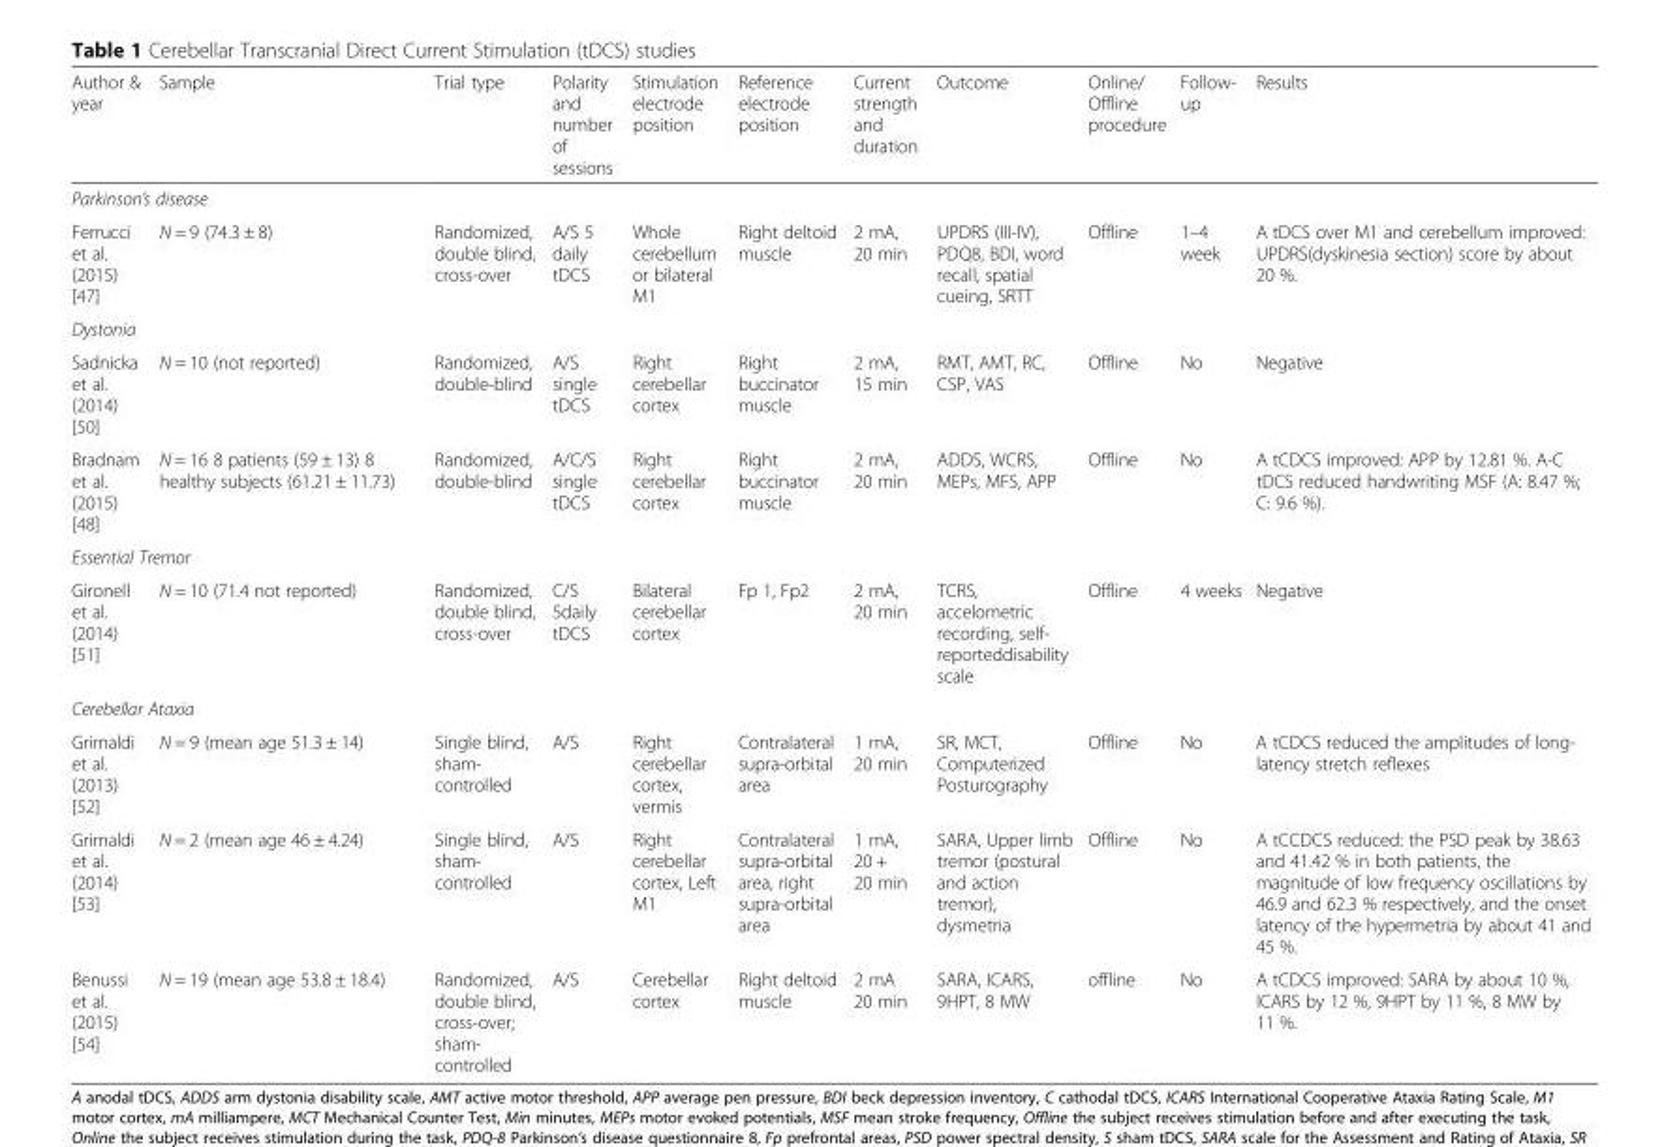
<table><thead><tr><td>Author &amp; year</td><td>Sample</td><td>Trial type</td><td>Polarity and number of sessions</td><td>Stimulation electrode position</td><td>Reference electrode position</td><td>Current strength and duration</td><td>Outcome</td><td>Online/ Offline procedure</td><td>Follow- up</td><td>Results</td></tr></thead><tbody><tr><td colspan="11">Parkinson’s disease</td></tr><tr><td>Ferrucci et al. (2015) [47]</td><td>N = 9 (74.3 ± 8)</td><td>Randomized, double blind, cross-over</td><td>A/S 5 daily tDCS</td><td>Whole cerebellum or bilateral M1</td><td>Right deltoid muscle</td><td>2 mA, 20 min</td><td>UPDRS (III-IV), PDQ8, BDI, word recall, spatial cueing, SRTT</td><td>Offline</td><td>1–4 week</td><td>A tDCS over M1 and cerebellum improved: UPDRS(dyskinesia section) score by about 20 %.</td></tr><tr><td colspan="11">Dystonia</td></tr><tr><td>Sadnicka et al. (2014) [50]</td><td>N = 10 (not reported)</td><td>Randomized, double-blind</td><td>A/S single tDCS</td><td>Right cerebellar cortex</td><td>Right buccinator muscle</td><td>2 mA, 15 min</td><td>RMT, AMT, RC, CSP, VAS</td><td>Offline</td><td>No</td><td>Negative</td></tr><tr><td>Bradnam et al. (2015) [48]</td><td>N = 16 8 patients (59 ± 13) 8 healthy subjects (61.21 ± 11.73)</td><td>Randomized, double-blind</td><td>A/C/S single tDCS</td><td>Right cerebellar cortex</td><td>Right buccinator muscle</td><td>2 mA, 20 min</td><td>ADDS, WCRS, MEPs, MFS, APP</td><td>Offline</td><td>No</td><td>A tCDCS improved: APP by 12.81 %. A-C tDCS reduced handwriting MSF (A: 8.47 %; C: 9.6 %).</td></tr><tr><td colspan="11">Essential Tremor</td></tr><tr><td>Gironell et al. (2014) [51]</td><td>N = 10 (71.4 not reported)</td><td>Randomized, double blind, cross-over</td><td>C/S 5daily tDCS</td><td>Bilateral cerebellar cortex</td><td>Fp 1, Fp2</td><td>2 mA, 20 min</td><td>TCRS, accelometric recording, self- reporteddisability scale</td><td>Offline</td><td>4 weeks</td><td>Negative</td></tr><tr><td colspan="11">Cerebellar Ataxia</td></tr><tr><td>Grimaldi et al. (2013) [52]</td><td>N = 9 (mean age 51.3 ± 14)</td><td>Single blind, sham- controlled</td><td>A/S</td><td>Right cerebellar cortex, vermis</td><td>Contralateral supra-orbital area</td><td>1 mA, 20 min</td><td>SR, MCT, Computerized Posturography</td><td>Offline</td><td>No</td><td>A tCDCS reduced the amplitudes of long- latency stretch reflexes</td></tr><tr><td>Grimaldi et al. (2014) [53]</td><td>N = 2 (mean age 46 ± 4.24)</td><td>Single blind, sham- controlled</td><td>A/S</td><td>Right cerebellar cortex, Left M1</td><td>Contralateral supra-orbital area, right supra-orbital area</td><td>1 mA, 20 + 20 min</td><td>SARA, Upper limb tremor (postural and action tremor), dysmetria</td><td>Offline</td><td>No</td><td>A tCCDCS reduced: the PSD peak by 38.63 and 41.42 % in both patients, the magnitude of low frequency oscillations by 46.9 and 62.3 % respectively, and the onset latency of the hypermetria by about 41 and 45 %.</td></tr><tr><td>Benussi et al. (2015) [54]</td><td>N = 19 (mean age 53.8 ± 18.4)</td><td>Randomized, double blind, cross-over; sham- controlled</td><td>A/S</td><td>Cerebellar cortex</td><td>Right deltoid muscle</td><td>2 mA 20 min</td><td>SARA, ICARS, 9HPT, 8 MW</td><td>offline</td><td>No</td><td>A tCDCS improved: SARA by about 10 %, ICARS by 12 %, 9HPT by 11 %, 8 MW by 11 %.</td></tr></tbody></table>